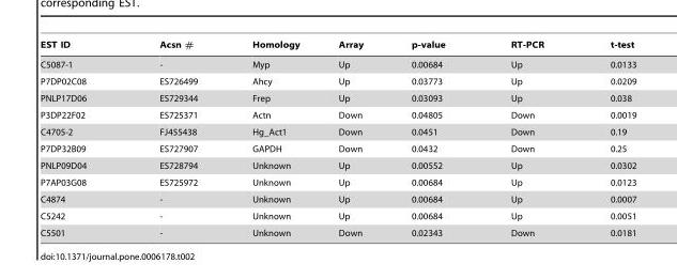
<table><thead><tr><td>EST ID</td><td>Acsn #</td><td>Homology</td><td>Array</td><td>p-value</td><td>RT-PCR</td><td>t-test</td></tr></thead><tbody><tr><td>C5087-1</td><td>-</td><td>Myp</td><td>Up</td><td>0.00684</td><td>Up</td><td>0.0133</td></tr><tr><td>P7DP02C08</td><td>ES726499</td><td>Ahcy</td><td>Up</td><td>0.03773</td><td>Up</td><td>0.0209</td></tr><tr><td>PNLP17D06</td><td>ES729344</td><td>Frep</td><td>Up</td><td>0.03093</td><td>Up</td><td>0.038</td></tr><tr><td>P3DP22F02</td><td>ES725371</td><td>Actn</td><td>Down</td><td>0.04805</td><td>Down</td><td>0.0019</td></tr><tr><td>C4705-2</td><td>FJ455438</td><td>Hg_Act1</td><td>Down</td><td>0.0451</td><td>Down</td><td>0.19</td></tr><tr><td>P7DP32B09</td><td>ES727907</td><td>GAPDH</td><td>Down</td><td>0.0432</td><td>Down</td><td>0.25</td></tr><tr><td>PNLP09D04</td><td>ES728794</td><td>Unknown</td><td>Up</td><td>0.00552</td><td>Up</td><td>0.0302</td></tr><tr><td>P7AP03G08</td><td>ES725972</td><td>Unknown</td><td>Up</td><td>0.00684</td><td>Up</td><td>0.0123</td></tr><tr><td>C4874</td><td>-</td><td>Unknown</td><td>Up</td><td>0.00684</td><td>Up</td><td>0.0007</td></tr><tr><td>C5242</td><td>-</td><td>Unknown</td><td>Up</td><td>0.00684</td><td>Up</td><td>0.0051</td></tr><tr><td>C5501</td><td>-</td><td>Unknown</td><td>Down</td><td>0.02343</td><td>Down</td><td>0.0181</td></tr></tbody></table>